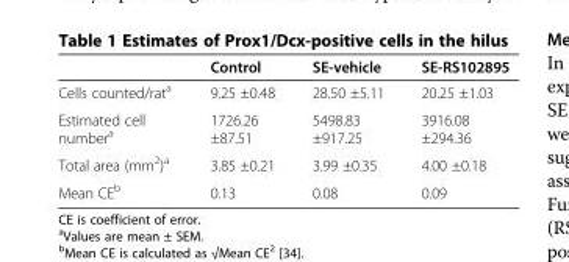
<table><thead><tr><td></td><td>Control</td><td>SE-vehicle</td><td>SE-RS102895</td></tr></thead><tbody><tr><td>Cells counted/rat<sup>a</sup></td><td>9.25 ±0.48</td><td>28.50 ±5.11</td><td>20.25 ±1.03</td></tr><tr><td>Estimated cell number<sup>a</sup></td><td>1726.26 ±87.51</td><td>5498.83 ±917.25</td><td>3916.08 ±294.36</td></tr><tr><td>Total area (mm<sup>2</sup>)<sup>a</sup></td><td>3.85 ±0.21</td><td>3.99 ±0.35</td><td>4.00 ±0.18</td></tr><tr><td>Mean CE<sup>b</sup></td><td>0.13</td><td>0.08</td><td>0.09</td></tr></tbody></table>